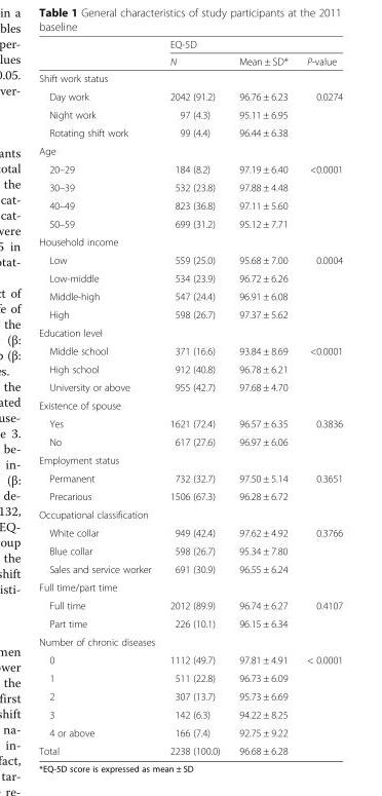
<table><thead><tr><td rowspan="2"></td><td colspan="3">EQ-5D</td></tr><tr><td>N</td><td>Mean ± SD*</td><td>P-value</td></tr></thead><tbody><tr><td colspan="4">Shift work status</td></tr><tr><td>Day work</td><td>2042 (91.2)</td><td>96.76 ± 6.23</td><td rowspan="3">0.0274</td></tr><tr><td>Night work</td><td>97 (4.3)</td><td>95.11 ± 6.95</td></tr><tr><td>Rotating shift work</td><td>99 (4.4)</td><td>96.44 ± 6.38</td></tr><tr><td colspan="4">Age</td></tr><tr><td>20–29</td><td>184 (8.2)</td><td>97.19 ± 6.40</td><td rowspan="4">&lt;0.0001</td></tr><tr><td>30–39</td><td>532 (23.8)</td><td>97.88 ± 4.48</td></tr><tr><td>40–49</td><td>823 (36.8)</td><td>97.11 ± 5.60</td></tr><tr><td>50–59</td><td>699 (31.2)</td><td>95.12 ± 7.71</td></tr><tr><td colspan="4">Household income</td></tr><tr><td>Low</td><td>559 (25.0)</td><td>95.68 ± 7.00</td><td rowspan="4">0.0004</td></tr><tr><td>Low-middle</td><td>534 (23.9)</td><td>96.72 ± 6.26</td></tr><tr><td>Middle-high</td><td>547 (24.4)</td><td>96.91 ± 6.08</td></tr><tr><td>High</td><td>598 (26.7)</td><td>97.37 ± 5.62</td></tr><tr><td colspan="4">Education level</td></tr><tr><td>Middle school</td><td>371 (16.6)</td><td>93.84 ± 8.69</td><td rowspan="3">&lt;0.0001</td></tr><tr><td>High school</td><td>912 (40.8)</td><td>96.78 ± 6.21</td></tr><tr><td>University or above</td><td>955 (42.7)</td><td>97.68 ± 4.70</td></tr><tr><td colspan="4">Existence of spouse</td></tr><tr><td>Yes</td><td>1621 (72.4)</td><td>96.57 ± 6.35</td><td rowspan="2">0.3836</td></tr><tr><td>No</td><td>617 (27.6)</td><td>96.97 ± 6.06</td></tr><tr><td colspan="4">Employment status</td></tr><tr><td>Permanent</td><td>732 (32.7)</td><td>97.50 ± 5.14</td><td rowspan="2">0.3651</td></tr><tr><td>Precarious</td><td>1506 (67.3)</td><td>96.28 ± 6.72</td></tr><tr><td colspan="4">Occupational classification</td></tr><tr><td>White collar</td><td>949 (42.4)</td><td>97.62 ± 4.92</td><td rowspan="3">0.3766</td></tr><tr><td>Blue collar</td><td>598 (26.7)</td><td>95.34 ± 7.80</td></tr><tr><td>Sales and service worker</td><td>691 (30.9)</td><td>96.55 ± 6.24</td></tr><tr><td colspan="4">Full time/part time</td></tr><tr><td>Full time</td><td>2012 (89.9)</td><td>96.74 ± 6.27</td><td rowspan="2">0.4107</td></tr><tr><td>Part time</td><td>226 (10.1)</td><td>96.15 ± 6.34</td></tr><tr><td colspan="4">Number of chronic diseases</td></tr><tr><td>0</td><td>1112 (49.7)</td><td>97.81 ± 4.91</td><td rowspan="5">&lt; 0.0001</td></tr><tr><td>1</td><td>511 (22.8)</td><td>96.73 ± 6.09</td></tr><tr><td>2</td><td>307 (13.7)</td><td>95.73 ± 6.69</td></tr><tr><td>3</td><td>142 (6.3)</td><td>94.22 ± 8.25</td></tr><tr><td>4 or above</td><td>166 (7.4)</td><td>92.75 ± 9.22</td></tr><tr><td>Total</td><td>2238 (100.0)</td><td>96.68 ± 6.28</td><td></td></tr></tbody></table>